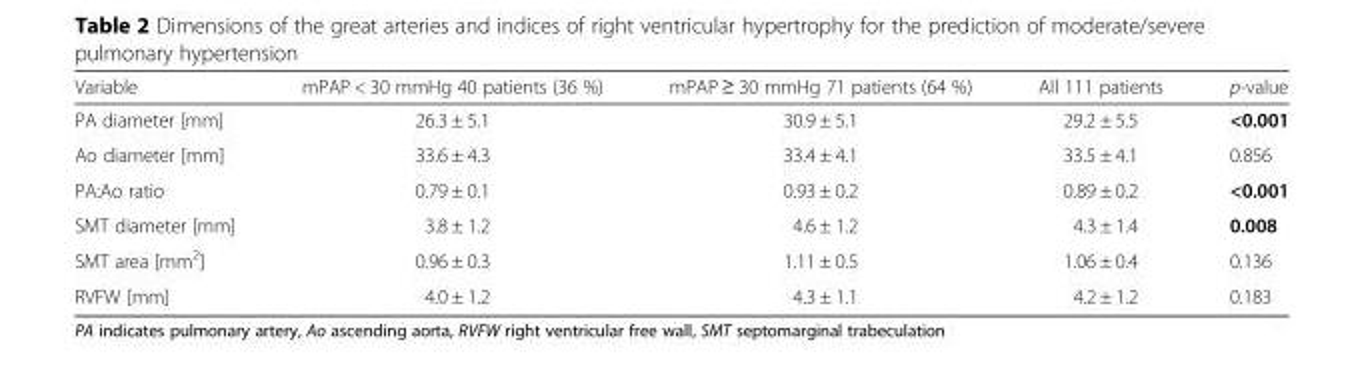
<table><thead><tr><td>Variable</td><td>mPAP &lt; 30 mmHg 40 patients (36 %)</td><td>mPAP ≥ 30 mmHg 71 patients (64 %)</td><td>All 111 patients</td><td>p-value</td></tr></thead><tbody><tr><td>PA diameter [mm]</td><td>26.3 ± 5.1</td><td>30.9 ± 5.1</td><td>29.2 ± 5.5</td><td>&lt;0.001</td></tr><tr><td>Ao diameter [mm]</td><td>33.6 ± 4.3</td><td>33.4 ± 4.1</td><td>33.5 ± 4.1</td><td>0.856</td></tr><tr><td>PA:Ao ratio</td><td>0.79 ± 0.1</td><td>0.93 ± 0.2</td><td>0.89 ± 0.2</td><td>&lt;0.001</td></tr><tr><td>SMT diameter [mm]</td><td>3.8 ± 1.2</td><td>4.6 ± 1.2</td><td>4.3 ± 1.4</td><td>0.008</td></tr><tr><td>SMT area [mm<sup>2</sup>]</td><td>0.96 ± 0.3</td><td>1.11 ± 0.5</td><td>1.06 ± 0.4</td><td>0.136</td></tr><tr><td>RVFW [mm]</td><td>4.0 ± 1.2</td><td>4.3 ± 1.1</td><td>4.2 ± 1.2</td><td>0.183</td></tr></tbody></table>